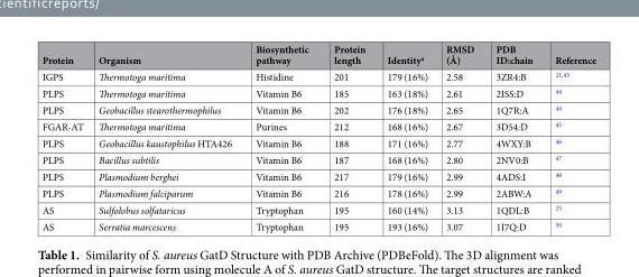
<table><thead><tr><td>Protein</td><td>Organism</td><td>Biosynthetic pathway</td><td>Protein length</td><td>Identity<sup>a</sup></td><td>RMSD (Å)</td><td>PDB ID:chain</td><td>Reference</td></tr></thead><tbody><tr><td>IGPS</td><td>Thermotoga maritima</td><td>Histidine</td><td>201</td><td>179 (16%)</td><td>2.58</td><td>3ZR4:B</td><td><sup>21,43</sup></td></tr><tr><td>PLPS</td><td>Thermotoga maritima</td><td>Vitamin B6</td><td>185</td><td>163 (18%)</td><td>2.61</td><td>2ISS:D</td><td><sup>44</sup></td></tr><tr><td>PLPS</td><td>Geobacillus stearothermophilus</td><td>Vitamin B6</td><td>202</td><td>176 (18%)</td><td>2.65</td><td>1Q7R:A</td><td><sup>44</sup></td></tr><tr><td>FGAR-AT</td><td>Thermotoga maritima</td><td>Purines</td><td>212</td><td>168 (16%)</td><td>2.67</td><td>3D54:D</td><td><sup>45</sup></td></tr><tr><td>PLPS</td><td>Geobacillus kaustophilus HTA426</td><td>Vitamin B6</td><td>188</td><td>171 (16%)</td><td>2.77</td><td>4WXY:B</td><td><sup>46</sup></td></tr><tr><td>PLPS</td><td>Bacillus subtilis</td><td>Vitamin B6</td><td>187</td><td>168 (16%)</td><td>2.80</td><td>2NV0:B</td><td><sup>47</sup></td></tr><tr><td>PLPS</td><td>Plasmodium berghei</td><td>Vitamin B6</td><td>217</td><td>179 (16%)</td><td>2.99</td><td>4ADS:I</td><td><sup>48</sup></td></tr><tr><td>PLPS</td><td>Plasmodium falciparum</td><td>Vitamin B6</td><td>216</td><td>178 (16%)</td><td>2.99</td><td>2ABW:A</td><td><sup>49</sup></td></tr><tr><td>AS</td><td>Sulfolobus solfataricus</td><td>Tryptophan</td><td>195</td><td>160 (14%)</td><td>3.13</td><td>1QDL:B</td><td><sup>25</sup></td></tr><tr><td>AS</td><td>Serratia marcescens</td><td>Tryptophan</td><td>195</td><td>193 (16%)</td><td>3.07</td><td>1I7Q:D</td><td><sup>50</sup></td></tr></tbody></table>